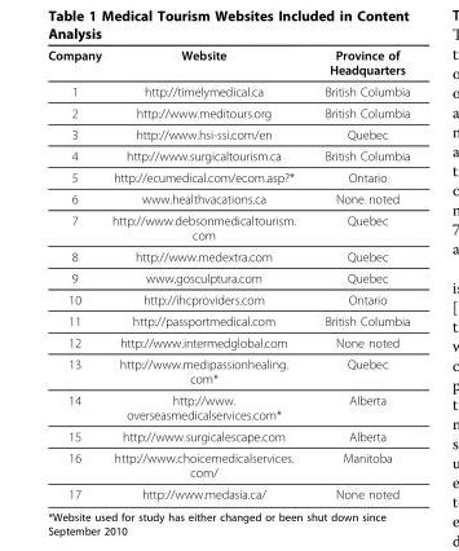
<table><thead><tr><td>Company</td><td>Website</td><td>Province of Headquarters</td></tr></thead><tbody><tr><td>1</td><td>http://timelymedical.ca</td><td>British Columbia</td></tr><tr><td>2</td><td>http://www.meditours.org</td><td>British Columbia</td></tr><tr><td>3</td><td>http://www.hsi-ssi.com/en</td><td>Quebec</td></tr><tr><td>4</td><td>http://www.surgicaltourism.ca</td><td>British Columbia</td></tr><tr><td>5</td><td>http://ecumedical.com/ecom.asp?*</td><td>Ontario</td></tr><tr><td>6</td><td>www.healthvacations.ca</td><td>None noted</td></tr><tr><td>7</td><td>http://www.debsonmedicaltourism. com</td><td>Quebec</td></tr><tr><td>8</td><td>http://www.medextra.com</td><td>Quebec</td></tr><tr><td>9</td><td>www.gosculptura.com</td><td>Quebec</td></tr><tr><td>10</td><td>http://ihcproviders.com</td><td>Ontario</td></tr><tr><td>11</td><td>http://passportmedical.com</td><td>British Columbia</td></tr><tr><td>12</td><td>http://www.intermedglobal.com</td><td>None noted</td></tr><tr><td>13</td><td>http://www.medipassionhealing. com*</td><td>Quebec</td></tr><tr><td>14</td><td>http://www. overseasmedicalservices.com*</td><td>Alberta</td></tr><tr><td>15</td><td>http://www.surgicalescape.com</td><td>Alberta</td></tr><tr><td>16</td><td>http://www.choicemedicalservices. com/</td><td>Manitoba</td></tr><tr><td>17</td><td>http://www.medasia.ca/</td><td>None noted</td></tr></tbody></table>